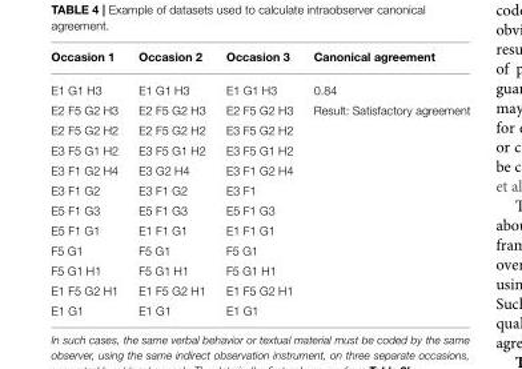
<table><thead><tr><td>Occasion 1</td><td>Occasion 2</td><td>Occasion 3</td><td>Canonical agreement</td></tr></thead><tbody><tr><td>E1 G1 H3</td><td>E1 G1 H3</td><td>E1 G1 H3</td><td>0.84</td></tr><tr><td>E2 F5 G2 H3</td><td>E2 F5 G2 H3</td><td>E2 F5 G2 H3</td><td>Result: Satisfactory agreement</td></tr><tr><td>E2 F5 G2 H2</td><td>E2 F5 G2 H2</td><td>E3 F5 G2 H2</td><td></td></tr><tr><td>E3 F5 G1 H2</td><td>E3 F5 G1 H2</td><td>E3 F5 G1 H2</td><td></td></tr><tr><td>E3 F1 G2 H4</td><td>E3 G2 H4</td><td>E3 F1 G2 H4</td><td></td></tr><tr><td>E3 F1 G2</td><td>E3 F1 G2</td><td>E3 F1</td><td></td></tr><tr><td>E5 F1 G3</td><td>E5 F1 G3</td><td>E5 F1 G3</td><td></td></tr><tr><td>E5 F1 G1</td><td>E1 F1 G1</td><td>E1 F1 G1</td><td></td></tr><tr><td>F5 G1</td><td>F5 G1</td><td>F5 G1</td><td></td></tr><tr><td>F5 G1 H1</td><td>F5 G1 H1</td><td>F5 G1 H1</td><td></td></tr><tr><td>E1 F5 G2 H1</td><td>E1 F5 G2 H1</td><td>E1 F5 G2 H1</td><td></td></tr><tr><td>E1 G1</td><td>E1 G1</td><td>E1 G1</td><td></td></tr></tbody></table>